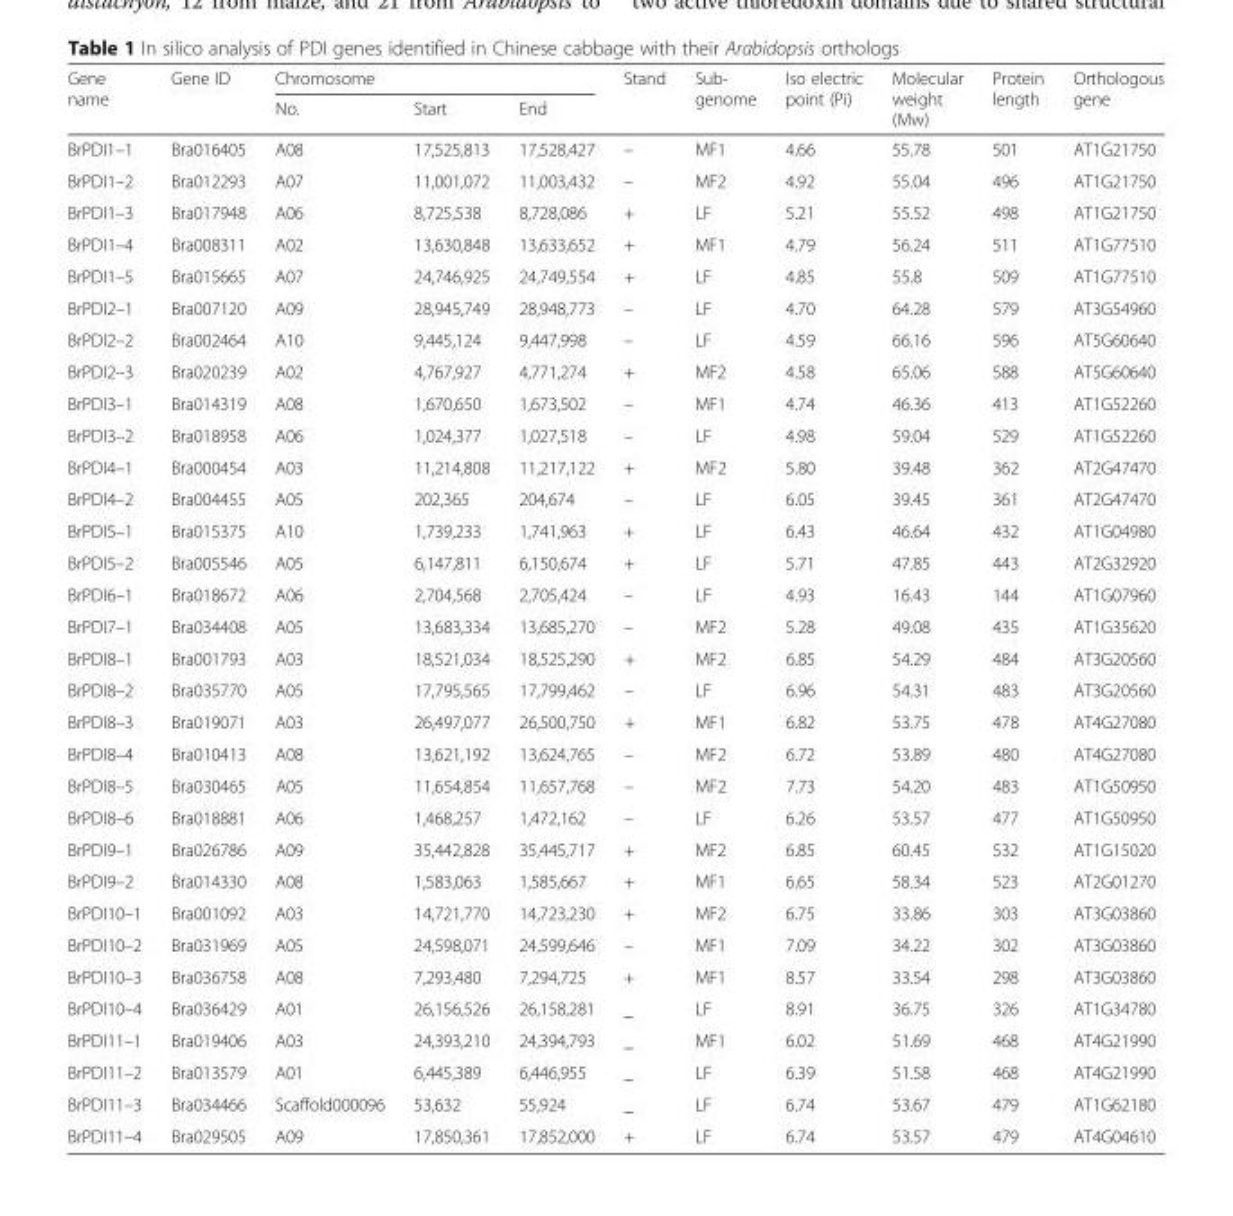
<table><thead><tr><td rowspan="2">Gene name</td><td rowspan="2">Gene ID</td><td colspan="3">Chromosome</td><td rowspan="2">Stand</td><td rowspan="2">Sub- genome</td><td rowspan="2">Iso electric point (Pi)</td><td rowspan="2">Molecular weight (Mw)</td><td rowspan="2">Protein length</td><td rowspan="2">Orthologous gene</td></tr><tr><td>No.</td><td>Start</td><td>End</td></tr></thead><tbody><tr><td>BrPDI1–1</td><td>Bra016405</td><td>A08</td><td>17,525,813</td><td>17,528,427</td><td>–</td><td>MF1</td><td>4.66</td><td>55.78</td><td>501</td><td>AT1G21750</td></tr><tr><td>BrPDI1–2</td><td>Bra012293</td><td>A07</td><td>11,001,072</td><td>11,003,432</td><td>–</td><td>MF2</td><td>4.92</td><td>55.04</td><td>496</td><td>AT1G21750</td></tr><tr><td>BrPDI1–3</td><td>Bra017948</td><td>A06</td><td>8,725,538</td><td>8,728,086</td><td>+</td><td>LF</td><td>5.21</td><td>55.52</td><td>498</td><td>AT1G21750</td></tr><tr><td>BrPDI1–4</td><td>Bra008311</td><td>A02</td><td>13,630,848</td><td>13,633,652</td><td>+</td><td>MF1</td><td>4.79</td><td>56.24</td><td>511</td><td>AT1G77510</td></tr><tr><td>BrPDI1–5</td><td>Bra015665</td><td>A07</td><td>24,746,925</td><td>24,749,554</td><td>+</td><td>LF</td><td>4.85</td><td>55.8</td><td>509</td><td>AT1G77510</td></tr><tr><td>BrPDI2–1</td><td>Bra007120</td><td>A09</td><td>28,945,749</td><td>28,948,773</td><td>–</td><td>LF</td><td>4.70</td><td>64.28</td><td>579</td><td>AT3G54960</td></tr><tr><td>BrPDI2–2</td><td>Bra002464</td><td>A10</td><td>9,445,124</td><td>9,447,998</td><td>–</td><td>LF</td><td>4.59</td><td>66.16</td><td>596</td><td>AT5G60640</td></tr><tr><td>BrPDI2–3</td><td>Bra020239</td><td>A02</td><td>4,767,927</td><td>4,771,274</td><td>+</td><td>MF2</td><td>4.58</td><td>65.06</td><td>588</td><td>AT5G60640</td></tr><tr><td>BrPDI3–1</td><td>Bra014319</td><td>A08</td><td>1,670,650</td><td>1,673,502</td><td>–</td><td>MF1</td><td>4.74</td><td>46.36</td><td>413</td><td>AT1G52260</td></tr><tr><td>BrPDI3–2</td><td>Bra018958</td><td>A06</td><td>1,024,377</td><td>1,027,518</td><td>–</td><td>LF</td><td>4.98</td><td>59.04</td><td>529</td><td>AT1G52260</td></tr><tr><td>BrPDI4–1</td><td>Bra000454</td><td>A03</td><td>11,214,808</td><td>11,217,122</td><td>+</td><td>MF2</td><td>5.80</td><td>39.48</td><td>362</td><td>AT2G47470</td></tr><tr><td>BrPDI4–2</td><td>Bra004455</td><td>A05</td><td>202,365</td><td>204,674</td><td>–</td><td>LF</td><td>6.05</td><td>39.45</td><td>361</td><td>AT2G47470</td></tr><tr><td>BrPDI5–1</td><td>Bra015375</td><td>A10</td><td>1,739,233</td><td>1,741,963</td><td>+</td><td>LF</td><td>6.43</td><td>46.64</td><td>432</td><td>AT1G04980</td></tr><tr><td>BrPDI5–2</td><td>Bra005546</td><td>A05</td><td>6,147,811</td><td>6,150,674</td><td>+</td><td>LF</td><td>5.71</td><td>47.85</td><td>443</td><td>AT2G32920</td></tr><tr><td>BrPDI6–1</td><td>Bra018672</td><td>A06</td><td>2,704,568</td><td>2,705,424</td><td>–</td><td>LF</td><td>4.93</td><td>16.43</td><td>144</td><td>AT1G07960</td></tr><tr><td>BrPDI7–1</td><td>Bra034408</td><td>A05</td><td>13,683,334</td><td>13,685,270</td><td>–</td><td>MF2</td><td>5.28</td><td>49.08</td><td>435</td><td>AT1G35620</td></tr><tr><td>BrPDI8–1</td><td>Bra001793</td><td>A03</td><td>18,521,034</td><td>18,525,290</td><td>+</td><td>MF2</td><td>6.85</td><td>54.29</td><td>484</td><td>AT3G20560</td></tr><tr><td>BrPDI8–2</td><td>Bra035770</td><td>A05</td><td>17,795,565</td><td>17,799,462</td><td>–</td><td>LF</td><td>6.96</td><td>54.31</td><td>483</td><td>AT3G20560</td></tr><tr><td>BrPDI8–3</td><td>Bra019071</td><td>A03</td><td>26,497,077</td><td>26,500,750</td><td>+</td><td>MF1</td><td>6.82</td><td>53.75</td><td>478</td><td>AT4G27080</td></tr><tr><td>BrPDI8–4</td><td>Bra010413</td><td>A08</td><td>13,621,192</td><td>13,624,765</td><td>–</td><td>MF2</td><td>6.72</td><td>53.89</td><td>480</td><td>AT4G27080</td></tr><tr><td>BrPDI8–5</td><td>Bra030465</td><td>A05</td><td>11,654,854</td><td>11,657,768</td><td>–</td><td>MF2</td><td>7.73</td><td>54.20</td><td>483</td><td>AT1G50950</td></tr><tr><td>BrPDI8–6</td><td>Bra018881</td><td>A06</td><td>1,468,257</td><td>1,472,162</td><td>–</td><td>LF</td><td>6.26</td><td>53.57</td><td>477</td><td>AT1G50950</td></tr><tr><td>BrPDI9–1</td><td>Bra026786</td><td>A09</td><td>35,442,828</td><td>35,445,717</td><td>+</td><td>MF2</td><td>6.85</td><td>60.45</td><td>532</td><td>AT1G15020</td></tr><tr><td>BrPDI9–2</td><td>Bra014330</td><td>A08</td><td>1,583,063</td><td>1,585,667</td><td>+</td><td>MF1</td><td>6.65</td><td>58.34</td><td>523</td><td>AT2G01270</td></tr><tr><td>BrPDI10–1</td><td>Bra001092</td><td>A03</td><td>14,721,770</td><td>14,723,230</td><td>+</td><td>MF2</td><td>6.75</td><td>33.86</td><td>303</td><td>AT3G03860</td></tr><tr><td>BrPDI10–2</td><td>Bra031969</td><td>A05</td><td>24,598,071</td><td>24,599,646</td><td>–</td><td>MF1</td><td>7.09</td><td>34.22</td><td>302</td><td>AT3G03860</td></tr><tr><td>BrPDI10–3</td><td>Bra036758</td><td>A08</td><td>7,293,480</td><td>7,294,725</td><td>+</td><td>MF1</td><td>8.57</td><td>33.54</td><td>298</td><td>AT3G03860</td></tr><tr><td>BrPDI10–4</td><td>Bra036429</td><td>A01</td><td>26,156,526</td><td>26,158,281</td><td>_</td><td>LF</td><td>8.91</td><td>36.75</td><td>326</td><td>AT1G34780</td></tr><tr><td>BrPDI11–1</td><td>Bra019406</td><td>A03</td><td>24,393,210</td><td>24,394,793</td><td>_</td><td>MF1</td><td>6.02</td><td>51.69</td><td>468</td><td>AT4G21990</td></tr><tr><td>BrPDI11–2</td><td>Bra013579</td><td>A01</td><td>6,445,389</td><td>6,446,955</td><td>_</td><td>LF</td><td>6.39</td><td>51.58</td><td>468</td><td>AT4G21990</td></tr><tr><td>BrPDI11–3</td><td>Bra034466</td><td>Scaffold000096</td><td>53,632</td><td>55,924</td><td>_</td><td>LF</td><td>6.74</td><td>53.67</td><td>479</td><td>AT1G62180</td></tr><tr><td>BrPDI11–4</td><td>Bra029505</td><td>A09</td><td>17,850,361</td><td>17,852,000</td><td>+</td><td>LF</td><td>6.74</td><td>53.57</td><td>479</td><td>AT4G04610</td></tr></tbody></table>